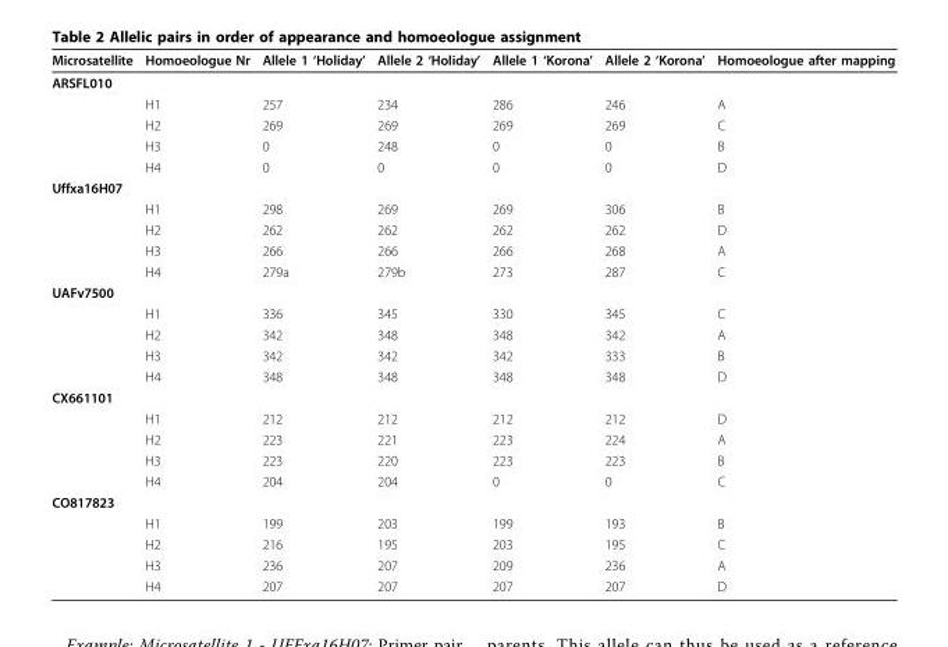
<table><thead><tr><td>Microsatellite</td><td>Homoeologue Nr</td><td>Allele 1 ‘Holiday’</td><td>Allele 2 ‘Holiday’</td><td>Allele 1 ‘Korona’</td><td>Allele 2 ‘Korona’</td><td>Homoeologue after mapping</td></tr></thead><tbody><tr><td colspan="7">ARSFL010</td></tr><tr><td></td><td>H1</td><td>257</td><td>234</td><td>286</td><td>246</td><td>A</td></tr><tr><td></td><td>H2</td><td>269</td><td>269</td><td>269</td><td>269</td><td>C</td></tr><tr><td></td><td>H3</td><td>0</td><td>248</td><td>0</td><td>0</td><td>B</td></tr><tr><td></td><td>H4</td><td>0</td><td>0</td><td>0</td><td>0</td><td>D</td></tr><tr><td colspan="7">Uffxa16H07</td></tr><tr><td></td><td>H1</td><td>298</td><td>269</td><td>269</td><td>306</td><td>B</td></tr><tr><td></td><td>H2</td><td>262</td><td>262</td><td>262</td><td>262</td><td>D</td></tr><tr><td></td><td>H3</td><td>266</td><td>266</td><td>266</td><td>268</td><td>A</td></tr><tr><td></td><td>H4</td><td>279a</td><td>279b</td><td>273</td><td>287</td><td>C</td></tr><tr><td colspan="7">UAFv7500</td></tr><tr><td></td><td>H1</td><td>336</td><td>345</td><td>330</td><td>345</td><td>C</td></tr><tr><td></td><td>H2</td><td>342</td><td>348</td><td>348</td><td>342</td><td>A</td></tr><tr><td></td><td>H3</td><td>342</td><td>342</td><td>342</td><td>333</td><td>B</td></tr><tr><td></td><td>H4</td><td>348</td><td>348</td><td>348</td><td>348</td><td>D</td></tr><tr><td colspan="7">CX661101</td></tr><tr><td></td><td>H1</td><td>212</td><td>212</td><td>212</td><td>212</td><td>D</td></tr><tr><td></td><td>H2</td><td>223</td><td>221</td><td>223</td><td>224</td><td>A</td></tr><tr><td></td><td>H3</td><td>223</td><td>220</td><td>223</td><td>223</td><td>B</td></tr><tr><td></td><td>H4</td><td>204</td><td>204</td><td>0</td><td>0</td><td>C</td></tr><tr><td colspan="7">CO817823</td></tr><tr><td></td><td>H1</td><td>199</td><td>203</td><td>199</td><td>193</td><td>B</td></tr><tr><td></td><td>H2</td><td>216</td><td>195</td><td>203</td><td>195</td><td>C</td></tr><tr><td></td><td>H3</td><td>236</td><td>207</td><td>209</td><td>236</td><td>A</td></tr><tr><td></td><td>H4</td><td>207</td><td>207</td><td>207</td><td>207</td><td>D</td></tr></tbody></table>